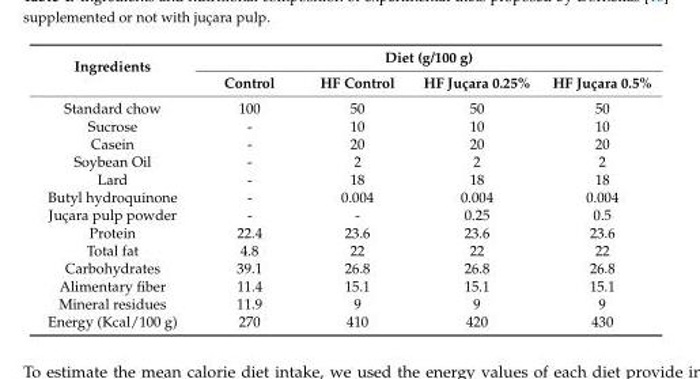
<table><thead><tr><td rowspan="2">Ingredients</td><td colspan="4">Diet (g/100 g)</td></tr><tr><td>Control</td><td>HF Control</td><td>HF Juçara 0.25%</td><td>HF Juçara 0.5%</td></tr></thead><tbody><tr><td>Standard chow</td><td>100</td><td>50</td><td>50</td><td>50</td></tr><tr><td>Sucrose</td><td>-</td><td>10</td><td>10</td><td>10</td></tr><tr><td>Casein</td><td>-</td><td>20</td><td>20</td><td>20</td></tr><tr><td>Soybean Oil</td><td>-</td><td>2</td><td>2</td><td>2</td></tr><tr><td>Lard</td><td>-</td><td>18</td><td>18</td><td>18</td></tr><tr><td>Butyl hydroquinone</td><td>-</td><td>0.004</td><td>0.004</td><td>0.004</td></tr><tr><td>Juçara pulp powder</td><td>-</td><td>-</td><td>0.25</td><td>0.5</td></tr><tr><td>Protein</td><td>22.4</td><td>23.6</td><td>23.6</td><td>23.6</td></tr><tr><td>Total fat</td><td>4.8</td><td>22</td><td>22</td><td>22</td></tr><tr><td>Carbohydrates</td><td>39.1</td><td>26.8</td><td>26.8</td><td>26.8</td></tr><tr><td>Alimentary fiber</td><td>11.4</td><td>15.1</td><td>15.1</td><td>15.1</td></tr><tr><td>Mineral residues</td><td>11.9</td><td>9</td><td>9</td><td>9</td></tr><tr><td>Energy (Kcal/100 g)</td><td>270</td><td>410</td><td>420</td><td>430</td></tr></tbody></table>